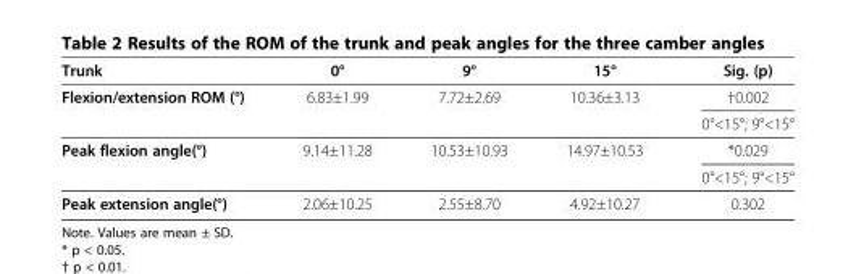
<table><thead><tr><td>Trunk</td><td>0°</td><td>9°</td><td>15°</td><td>Sig. (p)</td></tr></thead><tbody><tr><td rowspan="2">Flexion/extension ROM (°)</td><td>6.83±1.99</td><td>7.72±2.69</td><td>10.36±3.13</td><td>†0.002</td></tr><tr><td></td><td></td><td></td><td>0°&lt;15°; 9°&lt;15°</td></tr><tr><td rowspan="2">Peak flexion angle(°)</td><td>9.14±11.28</td><td>10.53±10.93</td><td>14.97±10.53</td><td>*0.029</td></tr><tr><td></td><td></td><td></td><td>0°&lt;15°; 9°&lt;15°</td></tr><tr><td>Peak extension angle(°)</td><td>2.06±10.25</td><td>2.55±8.70</td><td>4.92±10.27</td><td>0.302</td></tr></tbody></table>